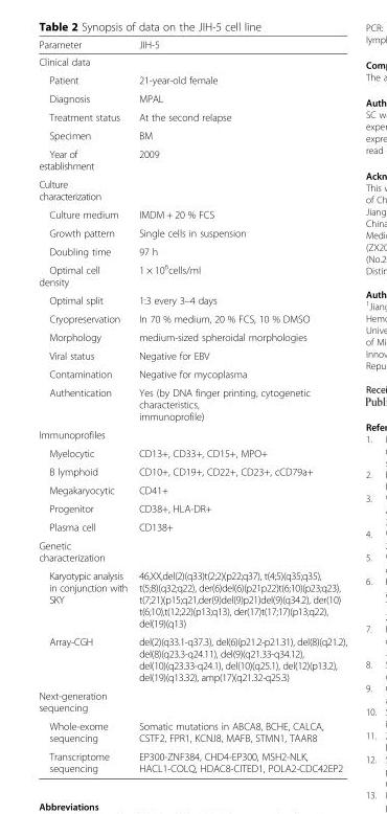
<table><thead><tr><td>Parameter</td><td>JIH-5</td></tr></thead><tbody><tr><td colspan="2">Clinical data</td></tr><tr><td>Patient</td><td>21-year-old female</td></tr><tr><td>Diagnosis</td><td>MPAL</td></tr><tr><td>Treatment status</td><td>At the second relapse</td></tr><tr><td>Specimen</td><td>BM</td></tr><tr><td>Year of establishment</td><td>2009</td></tr><tr><td colspan="2">Culture characterization</td></tr><tr><td>Culture medium</td><td>IMDM + 20 % FCS</td></tr><tr><td>Growth pattern</td><td>Single cells in suspension</td></tr><tr><td>Doubling time</td><td>97 h</td></tr><tr><td>Optimal cell density</td><td>1 × 10<sup>6</sup>cells/ml</td></tr><tr><td>Optimal split</td><td>1:3 every 3–4 days</td></tr><tr><td>Cryopreservation</td><td>In 70 % medium, 20 % FCS, 10 % DMSO</td></tr><tr><td>Morphology</td><td>medium-sized spheroidal morphologies</td></tr><tr><td>Viral status</td><td>Negative for EBV</td></tr><tr><td>Contamination</td><td>Negative for mycoplasma</td></tr><tr><td>Authentication</td><td>Yes (by DNA finger printing, cytogenetic characteristics, immunoprofile)</td></tr><tr><td colspan="2">Immunoprofiles</td></tr><tr><td>Myelocytic</td><td>CD13+, CD33+, CD15+, MPO+</td></tr><tr><td>B lymphoid</td><td>CD10+, CD19+, CD22+, CD23+, cCD79a+</td></tr><tr><td>Megakaryocytic</td><td>CD41+</td></tr><tr><td>Progenitor</td><td>CD38+, HLA-DR+</td></tr><tr><td>Plasma cell</td><td>CD138+</td></tr><tr><td colspan="2">Genetic characterization</td></tr><tr><td>Karyotypic analysis in conjunction with SKY</td><td>46,XX,del(2)(q33)t(2;2)(p22;q37), t(4;5)(q35;q35), t(5;8)(q32;q22), der(6)del(6)(p21p22)t(6;10)(p23;q23), t(7;21)(p15;q21,der(9)del(9)p21)del(9)(q34.2), der(10) t(6;10),t(12;22)(p13;q13), der(17)t(17;17)(p13;q22), del(19)(q13)</td></tr><tr><td>Array-CGH</td><td>del(2)(q33.1-q37.3), del(6)(p21.2-p21.31), del(8)(q21.2), del(8)(q23.3-q24.11), del(9)(q21.33-q34.12), del(10)(q23.33-q24.1), del(10)(q25.1), del(12)(p13.2), del(19)(q13.32), amp(17)(q21.32-q25.3)</td></tr><tr><td colspan="2">Next-generation sequencing</td></tr><tr><td>Whole-exome sequencing</td><td>Somatic mutations in ABCA8, BCHE, CALCA, CSTF2, FPR1, KCNJ8, MAFB, STMN1, TAAR8</td></tr><tr><td>Transcriptome sequencing</td><td>EP300-ZNF384, CHD4-EP300, MSH2-NLK, HACL1-COLQ, HDAC8-CITED1, POLA2-CDC42EP2</td></tr></tbody></table>